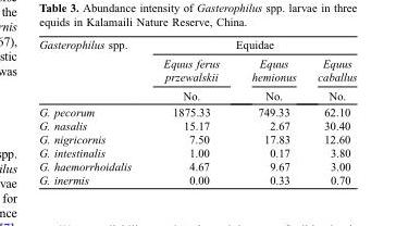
<table><thead><tr><td rowspan="3">Gasterophilus spp.</td><td colspan="3">Equidae</td></tr><tr><td rowspan="2">Equus ferus przewalskii No.</td><td rowspan="2">Equus hemionus No.</td><td rowspan="2">Equus caballus No.</td></tr><tr></tr></thead><tbody><tr><td>G. pecorum</td><td>1875.33</td><td>749.33</td><td>62.10</td></tr><tr><td>G. nasalis</td><td>15.17</td><td>2.67</td><td>30.40</td></tr><tr><td>G. nigricornis</td><td>7.50</td><td>17.83</td><td>12.60</td></tr><tr><td>G. intestinalis</td><td>1.00</td><td>0.17</td><td>3.80</td></tr><tr><td>G. haemorrhoidalis</td><td>4.67</td><td>9.67</td><td>3.00</td></tr><tr><td>G. inermis</td><td>0.00</td><td>0.33</td><td>0.70</td></tr></tbody></table>